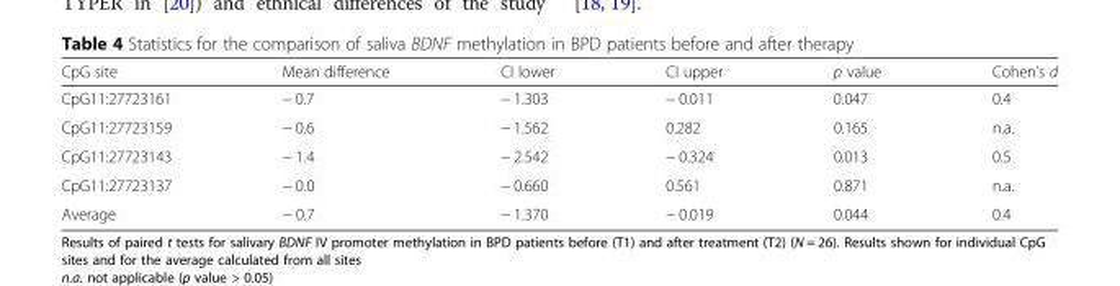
<table><thead><tr><td>CpG site</td><td>Mean difference</td><td>CI lower</td><td>CI upper</td><td>p value</td><td>Cohen’s d</td></tr></thead><tbody><tr><td>CpG11:27723161</td><td>− 0.7</td><td>− 1.303</td><td>− 0.011</td><td>0.047</td><td>0.4</td></tr><tr><td>CpG11:27723159</td><td>− 0.6</td><td>− 1.562</td><td>0.282</td><td>0.165</td><td>n.a.</td></tr><tr><td>CpG11:27723143</td><td>− 1.4</td><td>− 2.542</td><td>− 0.324</td><td>0.013</td><td>0.5</td></tr><tr><td>CpG11:27723137</td><td>− 0.0</td><td>− 0.660</td><td>0.561</td><td>0.871</td><td>n.a.</td></tr><tr><td>Average</td><td>− 0.7</td><td>− 1.370</td><td>− 0.019</td><td>0.044</td><td>0.4</td></tr></tbody></table>